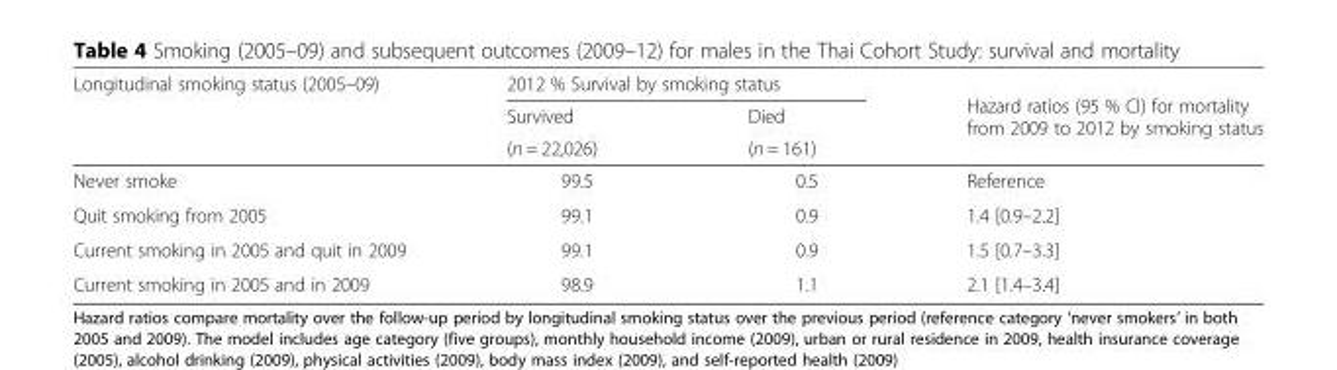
<table><thead><tr><td rowspan="3">Longitudinal smoking status (2005–09)</td><td colspan="2">2012 % Survival by smoking status</td><td rowspan="3">Hazard ratios (95 % CI) for mortality from 2009 to 2012 by smoking status</td></tr><tr><td rowspan="2">Survived (n = 22,026)</td><td rowspan="2">Died (n = 161)</td></tr><tr></tr></thead><tbody><tr><td>Never smoke</td><td>99.5</td><td>0.5</td><td>Reference</td></tr><tr><td>Quit smoking from 2005</td><td>99.1</td><td>0.9</td><td>1.4 [0.9–2.2]</td></tr><tr><td>Current smoking in 2005 and quit in 2009</td><td>99.1</td><td>0.9</td><td>1.5 [0.7–3.3]</td></tr><tr><td>Current smoking in 2005 and in 2009</td><td>98.9</td><td>1.1</td><td>2.1 [1.4–3.4]</td></tr></tbody></table>